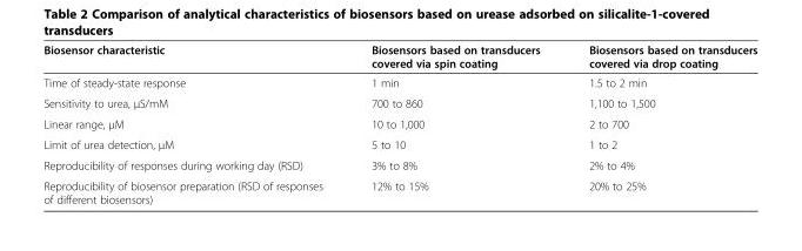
<table><thead><tr><td>Biosensor characteristic</td><td>Biosensors based on transducers covered via spin coating</td><td>Biosensors based on transducers covered via drop coating</td></tr></thead><tbody><tr><td>Time of steady-state response</td><td>1 min</td><td>1.5 to 2 min</td></tr><tr><td>Sensitivity to urea, μS/mM</td><td>700 to 860</td><td>1,100 to 1,500</td></tr><tr><td>Linear range, μM</td><td>10 to 1,000</td><td>2 to 700</td></tr><tr><td>Limit of urea detection, μM</td><td>5 to 10</td><td>1 to 2</td></tr><tr><td>Reproducibility of responses during working day (RSD)</td><td>3% to 8%</td><td>2% to 4%</td></tr><tr><td>Reproducibility of biosensor preparation (RSD of responses of different biosensors)</td><td>12% to 15%</td><td>20% to 25%</td></tr></tbody></table>